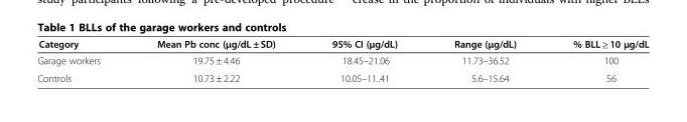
<table><thead><tr><td>Category</td><td>Mean Pb conc (μg/dL ± SD)</td><td>95% CI (μg/dL)</td><td>Range (μg/dL)</td><td>% BLL ≥ 10 μg/dL</td></tr></thead><tbody><tr><td>Garage workers</td><td>19.75 ± 4.46</td><td>18.45–21.06</td><td>11.73–36.52</td><td>100</td></tr><tr><td>Controls</td><td>10.73 ± 2.22</td><td>10.05–11..41</td><td>5.6–15.64</td><td>56</td></tr></tbody></table>